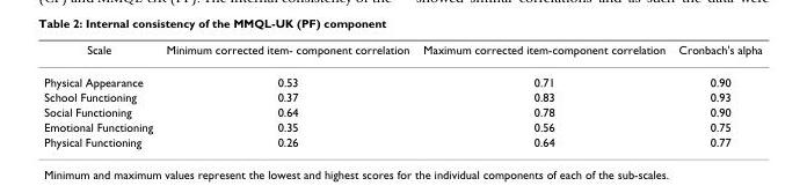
<table><thead><tr><td>Scale</td><td>Minimum corrected item- component correlation</td><td>Maximum corrected item-component correlation</td><td>Cronbach&#x27;s alpha</td></tr></thead><tbody><tr><td>Physical Appearance</td><td>0.53</td><td>0.71</td><td>0.90</td></tr><tr><td>School Functioning</td><td>0.37</td><td>0.83</td><td>0.93</td></tr><tr><td>Social Functioning</td><td>0.64</td><td>0.78</td><td>0.90</td></tr><tr><td>Emotional Functioning</td><td>0.35</td><td>0.56</td><td>0.75</td></tr><tr><td>Physical Functioning</td><td>0.26</td><td>0.64</td><td>0.77</td></tr></tbody></table>